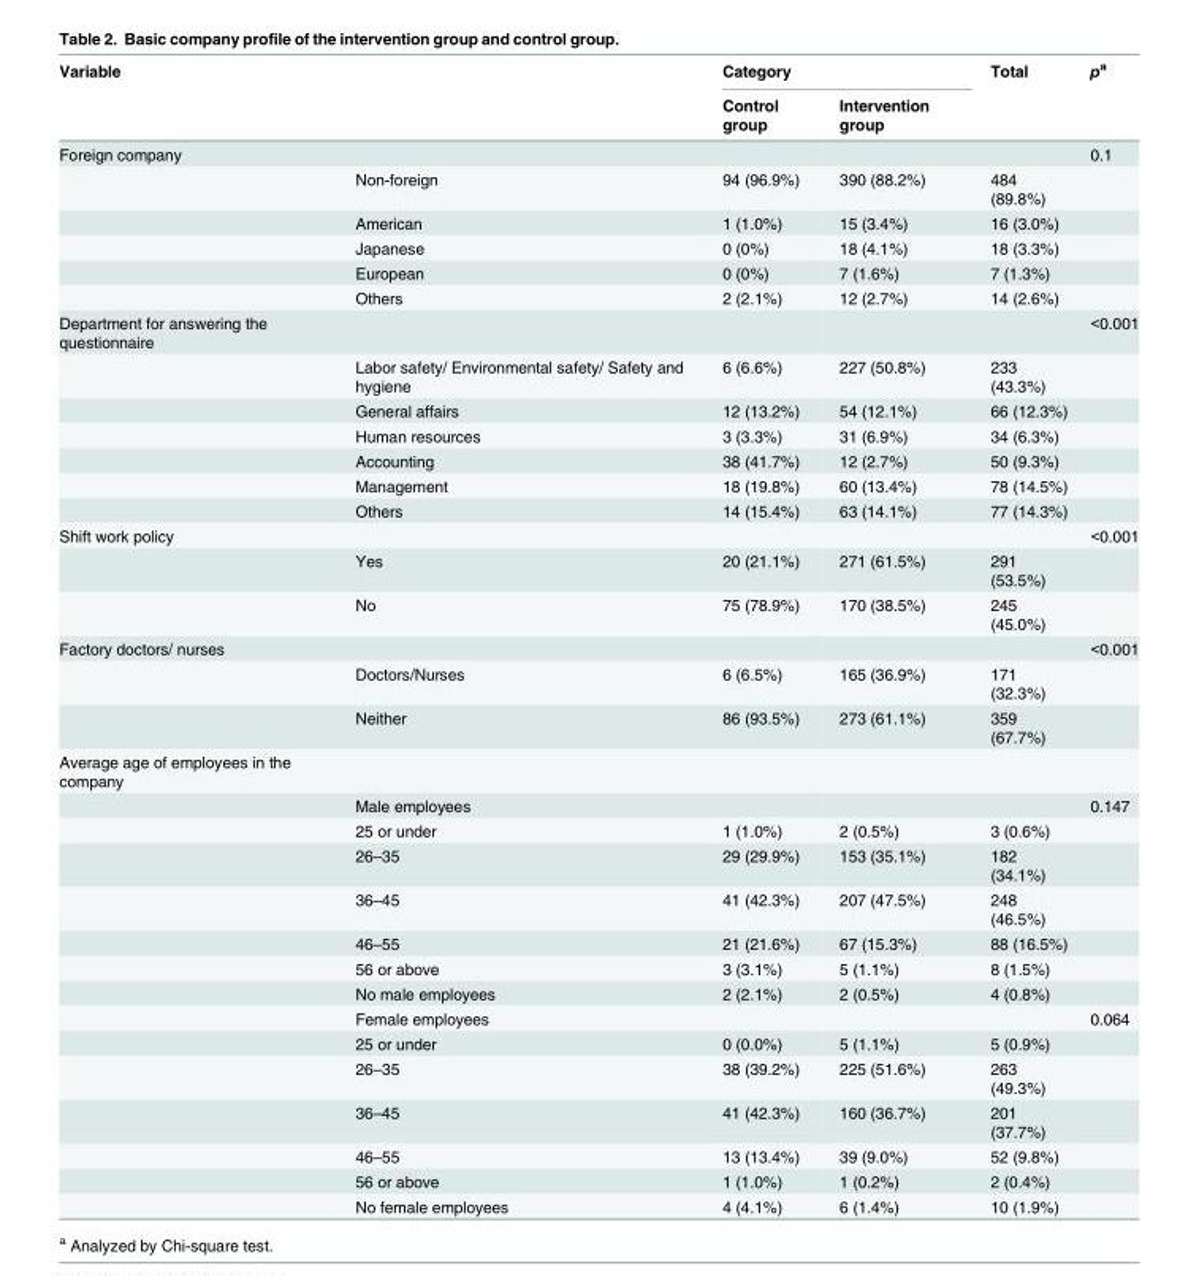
<table><thead><tr><td rowspan="2">Variable</td><td rowspan="2"></td><td colspan="2">Category</td><td rowspan="2">Total</td><td rowspan="2">p<sup>a</sup></td></tr><tr><td>Control group</td><td>Intervention group</td></tr></thead><tbody><tr><td rowspan="6">Foreign company</td><td></td><td></td><td></td><td></td><td>0.1</td></tr><tr><td>Non-foreign</td><td>94 (96.9%)</td><td>390 (88.2%)</td><td>484 (89.8%)</td><td></td></tr><tr><td>American</td><td>1 (1.0%)</td><td>15 (3.4%)</td><td>16 (3.0%)</td><td></td></tr><tr><td>Japanese</td><td>0 (0%)</td><td>18 (4.1%)</td><td>18 (3.3%)</td><td></td></tr><tr><td>European</td><td>0 (0%)</td><td>7 (1.6%)</td><td>7 (1.3%)</td><td></td></tr><tr><td>Others</td><td>2 (2.1%)</td><td>12 (2.7%)</td><td>14 (2.6%)</td><td></td></tr><tr><td rowspan="7">Department for answering the questionnaire</td><td></td><td></td><td></td><td></td><td>&lt;0.001</td></tr><tr><td>Labor safety/ Environmental safety/ Safety and hygiene</td><td>6 (6.6%)</td><td>227 (50.8%)</td><td>233 (43.3%)</td><td></td></tr><tr><td>General affairs</td><td>12 (13.2%)</td><td>54 (12.1%)</td><td>66 (12.3%)</td><td></td></tr><tr><td>Human resources</td><td>3 (3.3%)</td><td>31 (6.9%)</td><td>34 (6.3%)</td><td></td></tr><tr><td>Accounting</td><td>38 (41.7%)</td><td>12 (2.7%)</td><td>50 (9.3%)</td><td></td></tr><tr><td>Management</td><td>18 (19.8%)</td><td>60 (13.4%)</td><td>78 (14.5%)</td><td></td></tr><tr><td>Others</td><td>14 (15.4%)</td><td>63 (14.1%)</td><td>77 (14.3%)</td><td></td></tr><tr><td rowspan="3">Shift work policy</td><td></td><td></td><td></td><td></td><td>&lt;0.001</td></tr><tr><td>Yes</td><td>20 (21.1%)</td><td>271 (61.5%)</td><td>291 (53.5%)</td><td></td></tr><tr><td>No</td><td>75 (78.9%)</td><td>170 (38.5%)</td><td>245 (45.0%)</td><td></td></tr><tr><td rowspan="3">Factory doctors/ nurses</td><td></td><td></td><td></td><td></td><td>&lt;0.001</td></tr><tr><td>Doctors/Nurses</td><td>6 (6.5%)</td><td>165 (36.9%)</td><td>171 (32.3%)</td><td></td></tr><tr><td>Neither</td><td>86 (93.5%)</td><td>273 (61.1%)</td><td>359 (67.7%)</td><td></td></tr><tr><td colspan="6">Average age of employees in the company</td></tr><tr><td></td><td>Male employees</td><td></td><td></td><td></td><td>0.147</td></tr><tr><td></td><td>25 or under</td><td>1 (1.0%)</td><td>2 (0.5%)</td><td>3 (0.6%)</td><td></td></tr><tr><td></td><td>26–35</td><td>29 (29.9%)</td><td>153 (35.1%)</td><td>182 (34.1%)</td><td></td></tr><tr><td></td><td>36–45</td><td>41 (42.3%)</td><td>207 (47.5%)</td><td>248 (46.5%)</td><td></td></tr><tr><td></td><td>46–55</td><td>21 (21.6%)</td><td>67 (15.3%)</td><td>88 (16.5%)</td><td></td></tr><tr><td></td><td>56 or above</td><td>3 (3.1%)</td><td>5 (1.1%)</td><td>8 (1.5%)</td><td></td></tr><tr><td></td><td>No male employees</td><td>2 (2.1%)</td><td>2 (0.5%)</td><td>4 (0.8%)</td><td></td></tr><tr><td></td><td>Female employees</td><td></td><td></td><td></td><td>0.064</td></tr><tr><td></td><td>25 or under</td><td>0 (0.0%)</td><td>5 (1.1%)</td><td>5 (0.9%)</td><td></td></tr><tr><td></td><td>26–35</td><td>38 (39.2%)</td><td>225 (51.6%)</td><td>263 (49.3%)</td><td></td></tr><tr><td></td><td>36–45</td><td>41 (42.3%)</td><td>160 (36.7%)</td><td>201 (37.7%)</td><td></td></tr><tr><td></td><td>46–55</td><td>13 (13.4%)</td><td>39 (9.0%)</td><td>52 (9.8%)</td><td></td></tr><tr><td></td><td>56 or above</td><td>1 (1.0%)</td><td>1 (0.2%)</td><td>2 (0.4%)</td><td></td></tr><tr><td></td><td>No female employees</td><td>4 (4.1%)</td><td>6 (1.4%)</td><td>10 (1.9%)</td><td></td></tr></tbody></table>